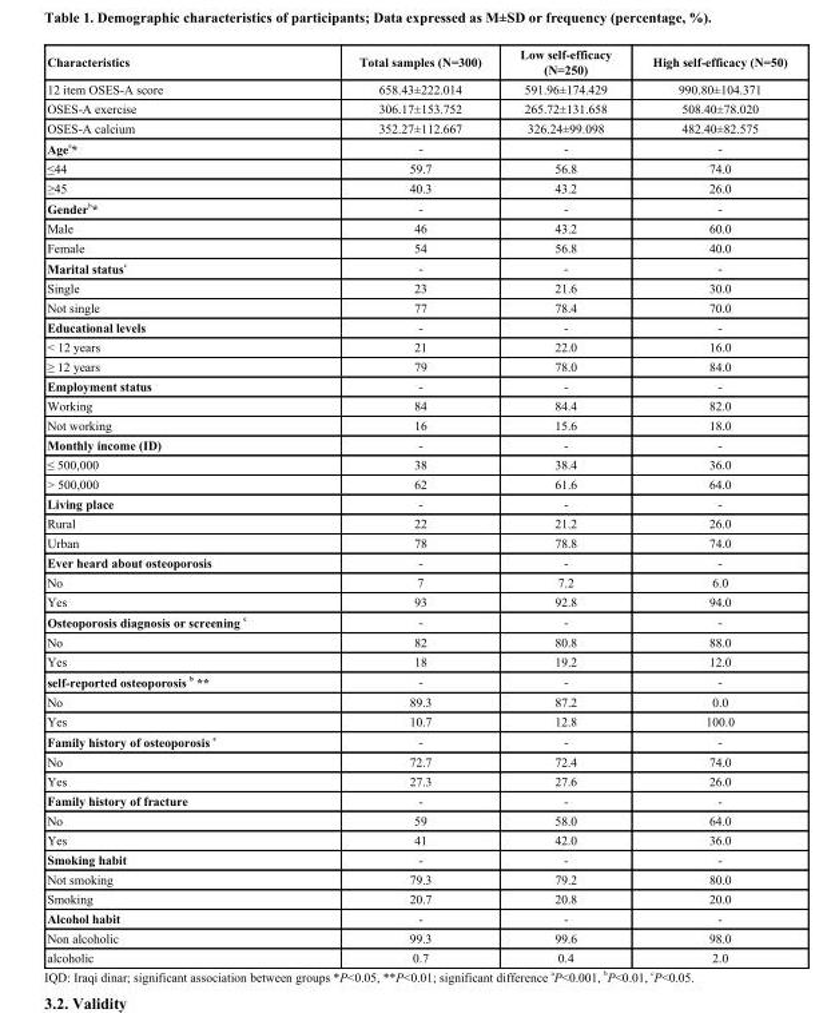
<table><thead><tr><td>Characteristics</td><td>Total samples (N=300)</td><td>Low self-efficacy (N=250)</td><td>High self-efficacy (N=50)</td></tr></thead><tbody><tr><td>12 item OSES-A score</td><td>658.43±222.014</td><td>591.96±174.429</td><td>990.80±104.371</td></tr><tr><td>OSES-A exercise</td><td>306.17±153.752</td><td>265.72±131.658</td><td>508.40±78.020</td></tr><tr><td>OSES-A calcium</td><td>352.27±112.667</td><td>326.24±99.098</td><td>482.40±82.575</td></tr><tr><td>Age <sup>a</sup>*</td><td>-</td><td>-</td><td>-</td></tr><tr><td>≤44</td><td>59.7</td><td>56.8</td><td>74.0</td></tr><tr><td>≥45</td><td>40.3</td><td>43.2</td><td>26.0</td></tr><tr><td>Gender <sup>b</sup>*</td><td>-</td><td>-</td><td>-</td></tr><tr><td>Male</td><td>46</td><td>43.2</td><td>60.0</td></tr><tr><td>Female</td><td>54</td><td>56.8</td><td>40.0</td></tr><tr><td>Marital status <sup>c</sup></td><td>-</td><td>-</td><td>-</td></tr><tr><td>Single</td><td>23</td><td>21.6</td><td>30.0</td></tr><tr><td>Not single</td><td>77</td><td>78.4</td><td>70.0</td></tr><tr><td>Educational levels</td><td>-</td><td>-</td><td>-</td></tr><tr><td>&lt; 12 years</td><td>21</td><td>22.0</td><td>16.0</td></tr><tr><td>≥ 12 years</td><td>79</td><td>78.0</td><td>84.0</td></tr><tr><td>Employment status</td><td>-</td><td>-</td><td>-</td></tr><tr><td>Working</td><td>84</td><td>84.4</td><td>82.0</td></tr><tr><td>Not working</td><td>16</td><td>15.6</td><td>18.0</td></tr><tr><td>Monthly income (ID)</td><td>-</td><td>-</td><td>-</td></tr><tr><td>≤ 500,000</td><td>38</td><td>38.4</td><td>36.0</td></tr><tr><td>&gt; 500,000</td><td>62</td><td>61.6</td><td>64.0</td></tr><tr><td>Living place</td><td>-</td><td>-</td><td>-</td></tr><tr><td>Rural</td><td>22</td><td>21.2</td><td>26.0</td></tr><tr><td>Urban</td><td>78</td><td>78.8</td><td>74.0</td></tr><tr><td>Ever heard about osteoporosis</td><td>-</td><td>-</td><td>-</td></tr><tr><td>No</td><td>7</td><td>7.2</td><td>6.0</td></tr><tr><td>Yes</td><td>93</td><td>92.8</td><td>94.0</td></tr><tr><td>Osteoporosis diagnosis or screening <sup>c</sup></td><td>-</td><td>-</td><td>-</td></tr><tr><td>No</td><td>82</td><td>80.8</td><td>88.0</td></tr><tr><td>Yes</td><td>18</td><td>19.2</td><td>12.0</td></tr><tr><td>self-reported osteoporosis <sup>b</sup> **</td><td>-</td><td>-</td><td>-</td></tr><tr><td>No</td><td>89.3</td><td>87.2</td><td>0.0</td></tr><tr><td>Yes</td><td>10.7</td><td>12.8</td><td>100.0</td></tr><tr><td>Family history of osteoporosis <sup>c</sup></td><td>-</td><td>-</td><td>-</td></tr><tr><td>No</td><td>72.7</td><td>72.4</td><td>74.0</td></tr><tr><td>Yes</td><td>27.3</td><td>27.6</td><td>26.0</td></tr><tr><td>Family history of fracture</td><td>-</td><td>-</td><td>-</td></tr><tr><td>No</td><td>59</td><td>58.0</td><td>64.0</td></tr><tr><td>Yes</td><td>41</td><td>42.0</td><td>36.0</td></tr><tr><td>Smoking habit</td><td>-</td><td>-</td><td>-</td></tr><tr><td>Not smoking</td><td>79.3</td><td>79.2</td><td>80.0</td></tr><tr><td>Smoking</td><td>20.7</td><td>20.8</td><td>20.0</td></tr><tr><td>Alcohol habit</td><td>-</td><td>-</td><td>-</td></tr><tr><td>Non alcoholic</td><td>99.3</td><td>99.6</td><td>98.0</td></tr><tr><td>alcoholic</td><td>0.7</td><td>0.4</td><td>2.0</td></tr></tbody></table>